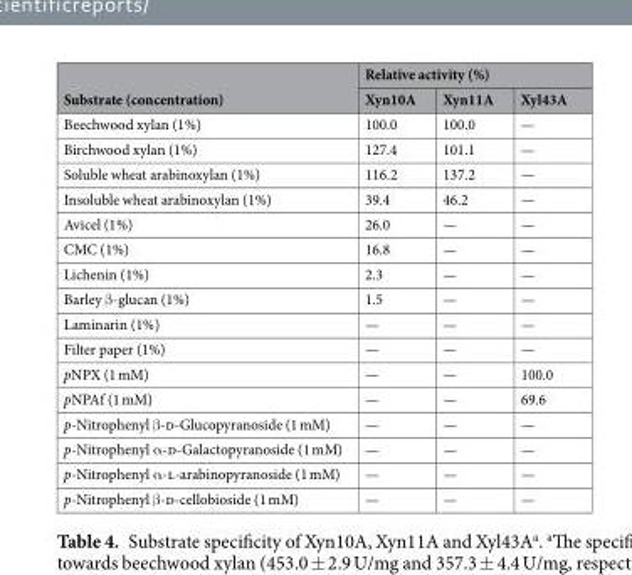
<table><thead><tr><td rowspan="2">Substrate (concentration)</td><td colspan="3">Relative activity (%)</td></tr><tr><td>Xyn10A</td><td>Xyn11A</td><td>Xyl43A</td></tr></thead><tbody><tr><td>Beechwood xylan (1%)</td><td>100.0</td><td>100.0</td><td>—</td></tr><tr><td>Birchwood xylan (1%)</td><td>127.4</td><td>101.1</td><td>—</td></tr><tr><td>Soluble wheat arabinoxylan (1%)</td><td>116.2</td><td>137.2</td><td>—</td></tr><tr><td>Insoluble wheat arabinoxylan (1%)</td><td>39.4</td><td>46.2</td><td>—</td></tr><tr><td>Avicel (1%)</td><td>26.0</td><td>—</td><td>—</td></tr><tr><td>CMC (1%)</td><td>16.8</td><td>—</td><td>—</td></tr><tr><td>Lichenin (1%)</td><td>2.3</td><td>—</td><td>—</td></tr><tr><td>Barley β-glucan (1%)</td><td>1.5</td><td>—</td><td>—</td></tr><tr><td>Laminarin (1%)</td><td>—</td><td>—</td><td>—</td></tr><tr><td>Filter paper (1%)</td><td>—</td><td>—</td><td>—</td></tr><tr><td>pNPX (1 mM)</td><td>—</td><td>—</td><td>100.0</td></tr><tr><td>pNPAf (1 mM)</td><td>—</td><td>—</td><td>69.6</td></tr><tr><td>p-Nitrophenyl β-d-Glucopyranoside (1 mM)</td><td>—</td><td>—</td><td>—</td></tr><tr><td>p-Nitrophenyl α-d-Galactopyranoside (1 mM)</td><td>—</td><td>—</td><td>—</td></tr><tr><td>p-Nitrophenyl α-l-arabinopyranoside (1 mM)</td><td>—</td><td>—</td><td>—</td></tr><tr><td>p-Nitrophenyl β-d-cellobioside (1 mM)</td><td>—</td><td>—</td><td>—</td></tr></tbody></table>